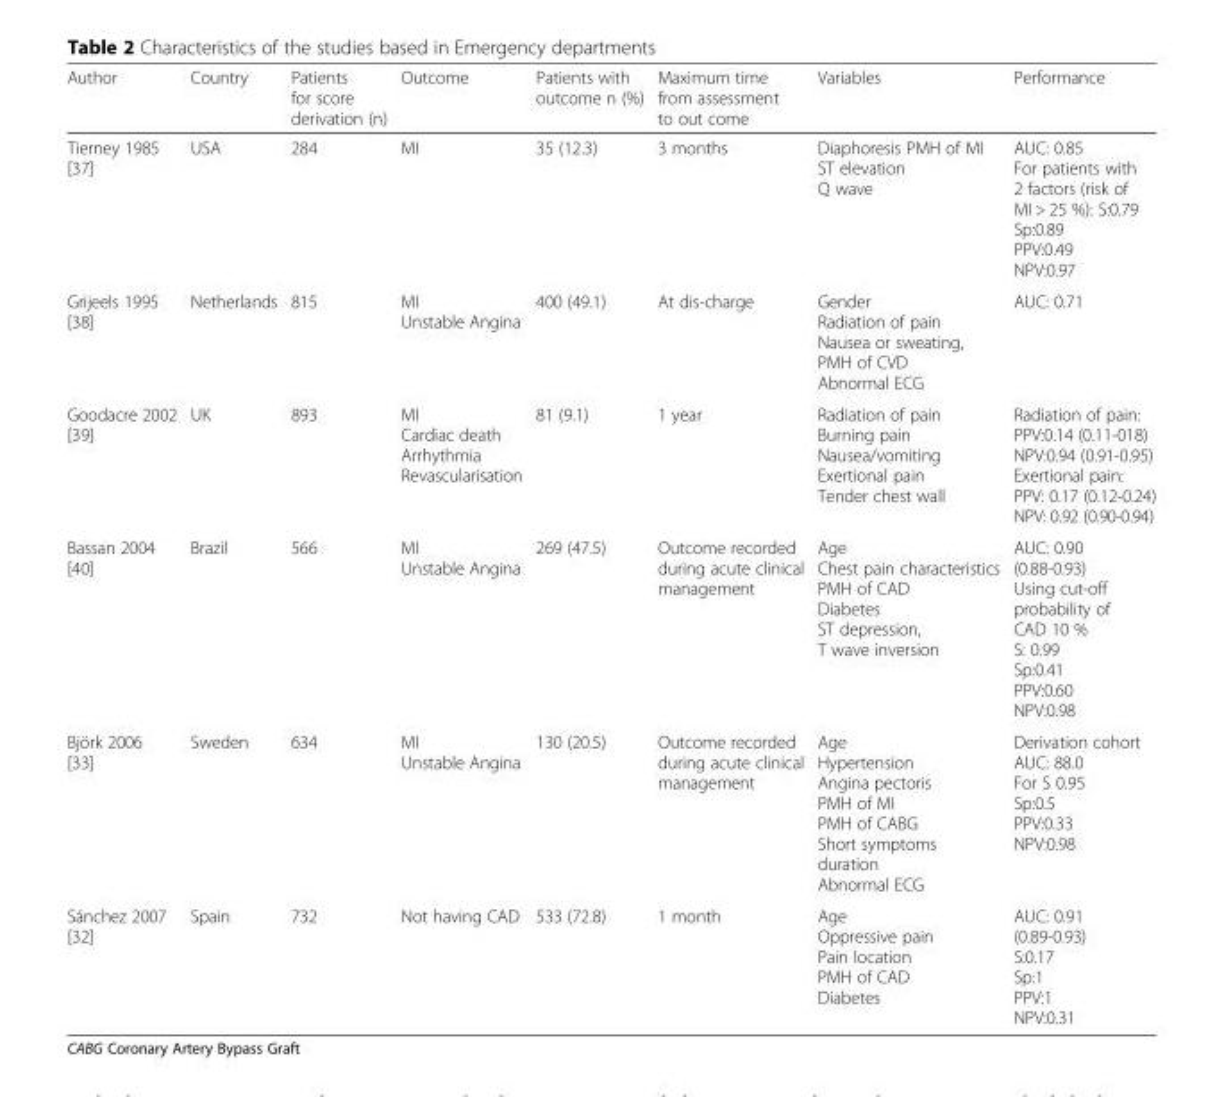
<table><thead><tr><td>Author</td><td>Country</td><td>Patients for score derivation (n)</td><td>Outcome</td><td>Patients with outcome n (%)</td><td>Maximum time from assessment to out come</td><td>Variables</td><td>Performance</td></tr></thead><tbody><tr><td>Tierney 1985 [37]</td><td>USA</td><td>284</td><td>MI</td><td>35 (12.3)</td><td>3 months</td><td>Diaphoresis PMH of MI ST elevation Q wave</td><td>AUC: 0.85 For patients with 2 factors (risk of MI &gt; 25 %): S:0.79 Sp:0.89 PPV:0.49 NPV:0.97</td></tr><tr><td>Grijeels 1995 [38]</td><td>Netherlands</td><td>815</td><td>MI Unstable Angina</td><td>400 (49.1)</td><td>At dis-charge</td><td>Gender Radiation of pain Nausea or sweating, PMH of CVD Abnormal ECG</td><td>AUC: 0.71</td></tr><tr><td>Goodacre 2002 [39]</td><td>UK</td><td>893</td><td>MI Cardiac death Arrhythmia Revascularisation</td><td>81 (9.1)</td><td>1 year</td><td>Radiation of pain Burning pain Nausea/vomiting Exertional pain Tender chest wall</td><td>Radiation of pain: PPV:0.14 (0.11-018) NPV:0.94 (0.91-0.95) Exertional pain: PPV: 0.17 (0.12-0.24) NPV: 0.92 (0.90-0.94)</td></tr><tr><td>Bassan 2004 [40]</td><td>Brazil</td><td>566</td><td>MI Unstable Angina</td><td>269 (47.5)</td><td>Outcome recorded during acute clinical management</td><td>Age Chest pain characteristics PMH of CAD Diabetes ST depression, T wave inversion</td><td>AUC: 0.90 (0.88-0.93) Using cut-off probability of CAD 10 % S: 0.99 Sp:0.41 PPV:0.60 NPV:0.98</td></tr><tr><td>Björk 2006 [33]</td><td>Sweden</td><td>634</td><td>MI Unstable Angina</td><td>130 (20.5)</td><td>Outcome recorded during acute clinical management</td><td>Age Hypertension Angina pectoris PMH of MI PMH of CABG Short symptoms duration Abnormal ECG</td><td>Derivation cohort AUC: 88.0 For S 0.95 Sp:0.5 PPV:0.33 NPV:0.98</td></tr><tr><td>Sánchez 2007 [32]</td><td>Spain</td><td>732</td><td>Not having CAD</td><td>533 (72.8)</td><td>1 month</td><td>Age Oppressive pain Pain location PMH of CAD Diabetes</td><td>AUC: 0.91 (0.89-0.93) S:0.17 Sp:1 PPV:1 NPV:0.31</td></tr></tbody></table>